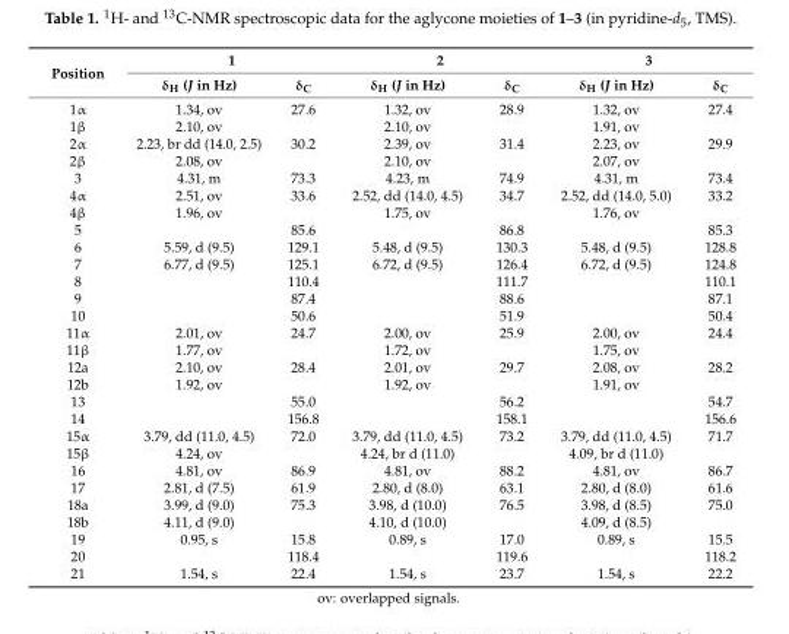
<table><thead><tr><td rowspan="2">Position</td><td colspan="2">1</td><td colspan="2">2</td><td colspan="2">3</td></tr><tr><td>δ<sub>H</sub> (J in Hz)</td><td>δ<sub>C</sub></td><td>δ<sub>H</sub> (J in Hz)</td><td>δ<sub>C</sub></td><td>δ<sub>H</sub> (J in Hz)</td><td>δ<sub>C</sub></td></tr></thead><tbody><tr><td>1α</td><td>1.34, ov</td><td>27.6</td><td>1.32, ov</td><td>28.9</td><td>1.32, ov</td><td>27.4</td></tr><tr><td>1β</td><td>2.10, ov</td><td></td><td>2.10, ov</td><td></td><td>1.91, ov</td><td></td></tr><tr><td>2α</td><td>2.23, br dd (14.0, 2.5)</td><td>30.2</td><td>2.39, ov</td><td>31.4</td><td>2.23, ov</td><td>29.9</td></tr><tr><td>2β</td><td>2.08, ov</td><td></td><td>2.10, ov</td><td></td><td>2.07, ov</td><td></td></tr><tr><td>3</td><td>4.31, m</td><td>73.3</td><td>4.23, m</td><td>74.9</td><td>4.31, m</td><td>73.4</td></tr><tr><td>4α</td><td>2.51, ov</td><td>33.6</td><td>2.52, dd (14.0, 4.5)</td><td>34.7</td><td>2.52, dd (14.0, 5.0)</td><td>33.2</td></tr><tr><td>4β</td><td>1.96, ov</td><td></td><td>1.75, ov</td><td></td><td>1.76, ov</td><td></td></tr><tr><td>5</td><td></td><td>85.6</td><td></td><td>86.8</td><td></td><td>85.3</td></tr><tr><td>6</td><td>5.59, d (9.5)</td><td>129.1</td><td>5.48, d (9.5)</td><td>130.3</td><td>5.48, d (9.5)</td><td>128.8</td></tr><tr><td>7</td><td>6.77, d (9.5)</td><td>125.1</td><td>6.72, d (9.5)</td><td>126.4</td><td>6.72, d (9.5)</td><td>124.8</td></tr><tr><td>8</td><td></td><td>110.4</td><td></td><td>111.7</td><td></td><td>110.1</td></tr><tr><td>9</td><td></td><td>87.4</td><td></td><td>88.6</td><td></td><td>87.1</td></tr><tr><td>10</td><td></td><td>50.6</td><td></td><td>51.9</td><td></td><td>50.4</td></tr><tr><td>11α</td><td>2.01, ov</td><td>24.7</td><td>2.00, ov</td><td>25.9</td><td>2.00, ov</td><td>24.4</td></tr><tr><td>11β</td><td>1.77, ov</td><td></td><td>1.72, ov</td><td></td><td>1.75, ov</td><td></td></tr><tr><td>12a</td><td>2.10, ov</td><td>28.4</td><td>2.01, ov</td><td>29.7</td><td>2.08, ov</td><td>28.2</td></tr><tr><td>12b</td><td>1.92, ov</td><td></td><td>1.92, ov</td><td></td><td>1.91, ov</td><td></td></tr><tr><td>13</td><td></td><td>55.0</td><td></td><td>56.2</td><td></td><td>54.7</td></tr><tr><td>14</td><td></td><td>156.8</td><td></td><td>158.1</td><td></td><td>156.6</td></tr><tr><td>15α</td><td>3.79, dd (11.0, 4.5)</td><td>72.0</td><td>3.79, dd (11.0, 4.5)</td><td>73.2</td><td>3.79, dd (11.0, 4.5)</td><td>71.7</td></tr><tr><td>15β</td><td>4.24, ov</td><td></td><td>4.24, br d (11.0)</td><td></td><td>4.09, br d (11.0)</td><td></td></tr><tr><td>16</td><td>4.81, ov</td><td>86.9</td><td>4.81, ov</td><td>88.2</td><td>4.81, ov</td><td>86.7</td></tr><tr><td>17</td><td>2.81, d (7.5)</td><td>61.9</td><td>2.80, d (8.0)</td><td>63.1</td><td>2.80, d (8.0)</td><td>61.6</td></tr><tr><td>18a</td><td>3.99, d (9.0)</td><td>75.3</td><td>3.98, d (10.0)</td><td>76.5</td><td>3.98, d (8.5)</td><td>75.0</td></tr><tr><td>18b</td><td>4.11, d (9.0)</td><td></td><td>4.10, d (10.0)</td><td></td><td>4.09, d (8.5)</td><td></td></tr><tr><td>19</td><td>0.95, s</td><td>15.8</td><td>0.89, s</td><td>17.0</td><td>0.89, s</td><td>15.5</td></tr><tr><td>20</td><td></td><td>118.4</td><td></td><td>119.6</td><td></td><td>118.2</td></tr><tr><td>21</td><td>1.54, s</td><td>22.4</td><td>1.54, s</td><td>23.7</td><td>1.54, s</td><td>22.2</td></tr></tbody></table>